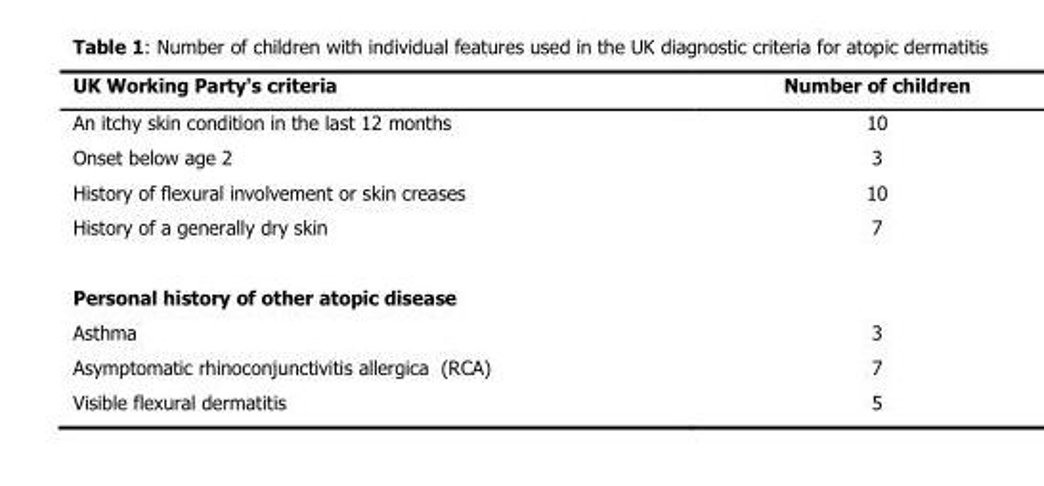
<table><thead><tr><td>UK Working Party&#x27;s criteria</td><td>Number of children</td></tr></thead><tbody><tr><td>An itchy skin condition in the last 12 months</td><td>10</td></tr><tr><td>Onset below age 2</td><td>3</td></tr><tr><td>History of flexural involvement or skin creases</td><td>10</td></tr><tr><td>History of a generally dry skin</td><td>7</td></tr><tr><td colspan="2">Personal history of other atopic disease</td></tr><tr><td>Asthma</td><td>3</td></tr><tr><td>Asymptomatic rhinoconjunctivitis allergica (RCA)</td><td>7</td></tr><tr><td>Visible flexural dermatitis</td><td>5</td></tr></tbody></table>